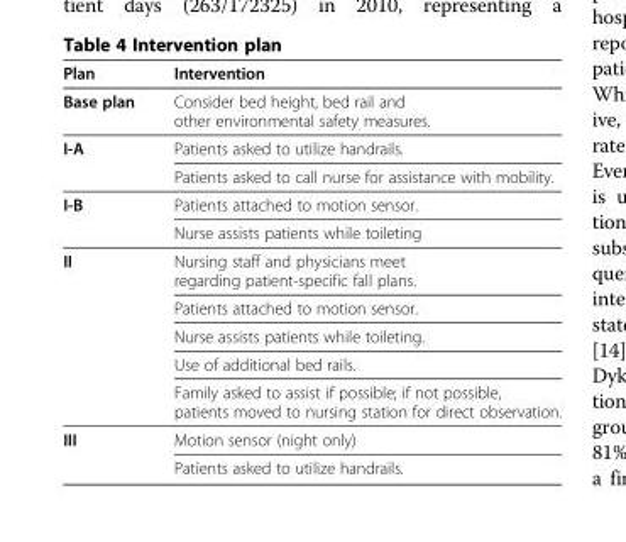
<table><thead><tr><td>Plan</td><td>Intervention</td></tr></thead><tbody><tr><td>Base plan</td><td>Consider bed height, bed rail and other environmental safety measures.</td></tr><tr><td rowspan="2">I-A</td><td>Patients asked to utilize handrails.</td></tr><tr><td>Patients asked to call nurse for assistance with mobility.</td></tr><tr><td rowspan="2">I-B</td><td>Patients attached to motion sensor.</td></tr><tr><td>Nurse assists patients while toileting</td></tr><tr><td rowspan="5">II</td><td>Nursing staff and physicians meet regarding patient-specific fall plans.</td></tr><tr><td>Patients attached to motion sensor.</td></tr><tr><td>Nurse assists patients while toileting.</td></tr><tr><td>Use of additional bed rails.</td></tr><tr><td>Family asked to assist if possible; if not possible, patients moved to nursing station for direct observation.</td></tr><tr><td rowspan="2">III</td><td>Motion sensor (night only)</td></tr><tr><td>Patients asked to utilize handrails.</td></tr></tbody></table>